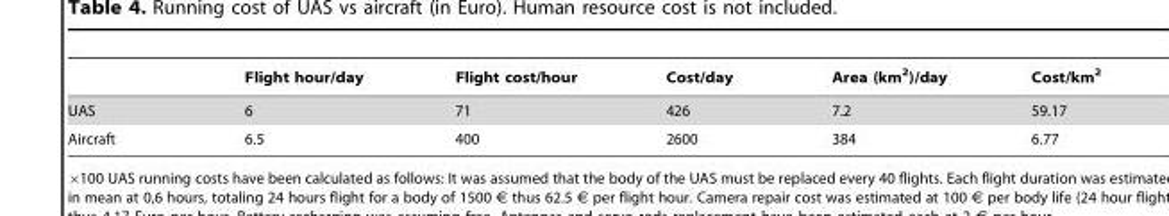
<table><thead><tr><td></td><td>Flight hour/day</td><td>Flight cost/hour</td><td>Cost/day</td><td>Area (km<sup>2</sup>)/day</td><td>Cost/km<sup>2</sup></td></tr></thead><tbody><tr><td>UAS</td><td>6</td><td>71</td><td>426</td><td>7.2</td><td>59.17</td></tr><tr><td>Aircraft</td><td>6.5</td><td>400</td><td>2600</td><td>384</td><td>6.77</td></tr></tbody></table>